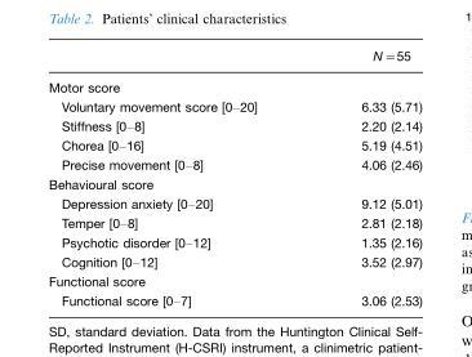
<table><thead><tr><td></td><td>N=55</td></tr></thead><tbody><tr><td colspan="2">Motor score</td></tr><tr><td>Voluntary movement score [0–20]</td><td>6.33 (5.71)</td></tr><tr><td>Stiffness [0–8]</td><td>2.20 (2.14)</td></tr><tr><td>Chorea [0–16]</td><td>5.19 (4.51)</td></tr><tr><td>Precise movement [0–8]</td><td>4.06 (2.46)</td></tr><tr><td colspan="2">Behavioural score</td></tr><tr><td>Depression anxiety [0–20]</td><td>9.12 (5.01)</td></tr><tr><td>Temper [0–8]</td><td>2.81 (2.18)</td></tr><tr><td>Psychotic disorder [0–12]</td><td>1.35 (2.16)</td></tr><tr><td>Cognition [0–12]</td><td>3.52 (2.97)</td></tr><tr><td colspan="2">Functional score</td></tr><tr><td>Functional score [0–7]</td><td>3.06 (2.53)</td></tr></tbody></table>